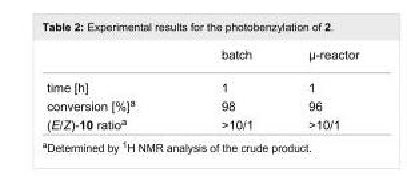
<table><thead><tr><td></td><td>batch</td><td>μ-reactor</td></tr></thead><tbody><tr><td>time [h]</td><td>1</td><td>1</td></tr><tr><td>conversion [%]<sup>a</sup></td><td>98</td><td>96</td></tr><tr><td>(E/Z)-10 ratio<sup>a</sup></td><td>&gt;10/1</td><td>&gt;10/1</td></tr></tbody></table>